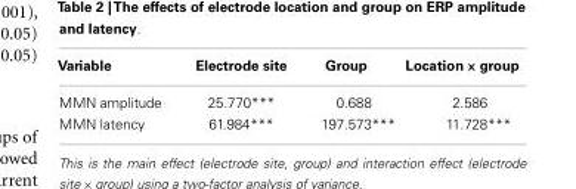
<table><thead><tr><td>Variable</td><td>Electrode site</td><td>Group</td><td>Location × group</td></tr></thead><tbody><tr><td>MMN amplitude</td><td>25.770***</td><td>0.688</td><td>2.586</td></tr><tr><td>MMN latency</td><td>61.984***</td><td>197.573***</td><td>11.728***</td></tr></tbody></table>